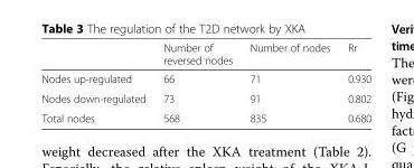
<table><thead><tr><td></td><td>Number of reversed nodes</td><td>Number of nodes</td><td>Rr</td></tr></thead><tbody><tr><td>Nodes up-regulated</td><td>66</td><td>71</td><td>0.930</td></tr><tr><td>Nodes down-regulated</td><td>73</td><td>91</td><td>0.802</td></tr><tr><td>Total nodes</td><td>568</td><td>835</td><td>0.680</td></tr></tbody></table>